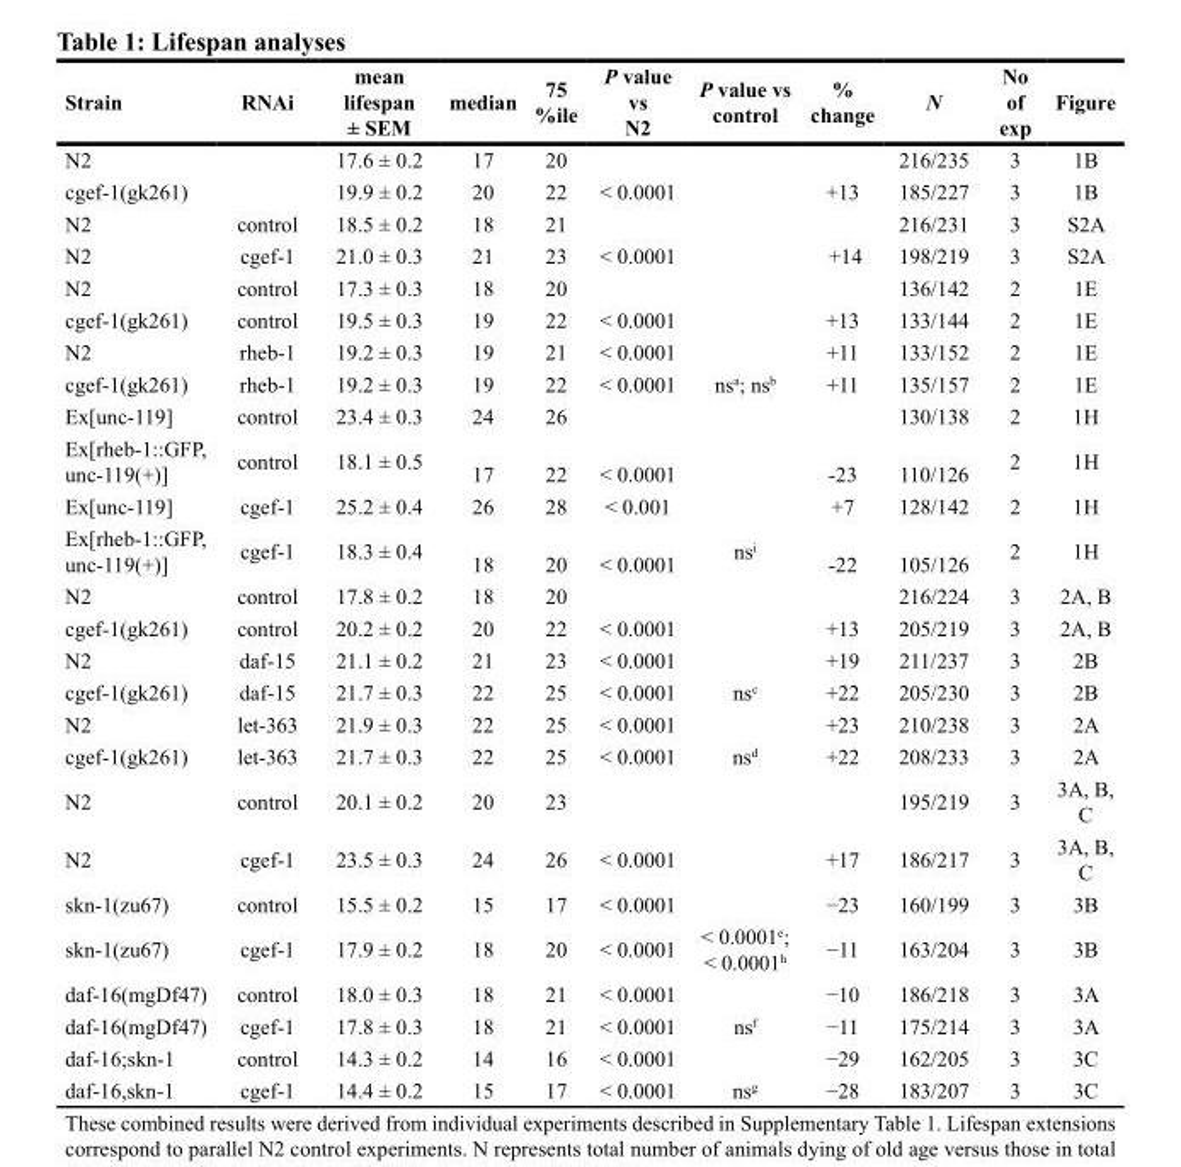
<table><thead><tr><td>Strain</td><td>RNAi</td><td>mean lifespan ± SEM</td><td>median</td><td>75 %ile</td><td>P value vs N2</td><td>P value vs control</td><td>% change</td><td>N</td><td>No of exp</td><td>Figure</td></tr></thead><tbody><tr><td>N2</td><td></td><td>17.6 ± 0.2</td><td>17</td><td>20</td><td></td><td></td><td></td><td>216/235</td><td>3</td><td>1B</td></tr><tr><td>cgef-1(gk261)</td><td></td><td>19.9 ± 0.2</td><td>20</td><td>22</td><td>&lt; 0.0001</td><td></td><td>+13</td><td>185/227</td><td>3</td><td>1B</td></tr><tr><td>N2</td><td>control</td><td>18.5 ± 0.2</td><td>18</td><td>21</td><td></td><td></td><td></td><td>216/231</td><td>3</td><td>S2A</td></tr><tr><td>N2</td><td>cgef-1</td><td>21.0 ± 0.3</td><td>21</td><td>23</td><td>&lt; 0.0001</td><td></td><td>+14</td><td>198/219</td><td>3</td><td>S2A</td></tr><tr><td>N2</td><td>control</td><td>17.3 ± 0.3</td><td>18</td><td>20</td><td></td><td></td><td></td><td>136/142</td><td>2</td><td>1E</td></tr><tr><td>cgef-1(gk261)</td><td>control</td><td>19.5 ± 0.3</td><td>19</td><td>22</td><td>&lt; 0.0001</td><td></td><td>+13</td><td>133/144</td><td>2</td><td>1E</td></tr><tr><td>N2</td><td>rheb-1</td><td>19.2 ± 0.3</td><td>19</td><td>21</td><td>&lt; 0.0001</td><td></td><td>+11</td><td>133/152</td><td>2</td><td>1E</td></tr><tr><td>cgef-1(gk261)</td><td>rheb-1</td><td>19.2 ± 0.3</td><td>19</td><td>22</td><td>&lt; 0.0001</td><td>ns<sup>a</sup>; ns<sup>b</sup></td><td>+11</td><td>135/157</td><td>2</td><td>1E</td></tr><tr><td>Ex[unc-119]</td><td>control</td><td>23.4 ± 0.3</td><td>24</td><td>26</td><td></td><td></td><td></td><td>130/138</td><td>2</td><td>1H</td></tr><tr><td>Ex[rheb-1::GFP, unc-119(+)]</td><td>control</td><td>18.1 ± 0.5</td><td>17</td><td>22</td><td>&lt; 0.0001</td><td></td><td>-23</td><td>110/126</td><td>2</td><td>1H</td></tr><tr><td>Ex[unc-119]</td><td>cgef-1</td><td>25.2 ± 0.4</td><td>26</td><td>28</td><td>&lt; 0.001</td><td></td><td>+7</td><td>128/142</td><td>2</td><td>1H</td></tr><tr><td>Ex[rheb-1::GFP, unc-119(+)]</td><td>cgef-1</td><td>18.3 ± 0.4</td><td>18</td><td>20</td><td>&lt; 0.0001</td><td>ns<sup>i</sup></td><td>-22</td><td>105/126</td><td>2</td><td>1H</td></tr><tr><td>N2</td><td>control</td><td>17.8 ± 0.2</td><td>18</td><td>20</td><td></td><td></td><td></td><td>216/224</td><td>3</td><td>2A, B</td></tr><tr><td>cgef-1(gk261)</td><td>control</td><td>20.2 ± 0.2</td><td>20</td><td>22</td><td>&lt; 0.0001</td><td></td><td>+13</td><td>205/219</td><td>3</td><td>2A, B</td></tr><tr><td>N2</td><td>daf-15</td><td>21.1 ± 0.2</td><td>21</td><td>23</td><td>&lt; 0.0001</td><td></td><td>+19</td><td>211/237</td><td>3</td><td>2B</td></tr><tr><td>cgef-1(gk261)</td><td>daf-15</td><td>21.7 ± 0.3</td><td>22</td><td>25</td><td>&lt; 0.0001</td><td>ns<sup>c</sup></td><td>+22</td><td>205/230</td><td>3</td><td>2B</td></tr><tr><td>N2</td><td>let-363</td><td>21.9 ± 0.3</td><td>22</td><td>25</td><td>&lt; 0.0001</td><td></td><td>+23</td><td>210/238</td><td>3</td><td>2A</td></tr><tr><td>cgef-1(gk261)</td><td>let-363</td><td>21.7 ± 0.3</td><td>22</td><td>25</td><td>&lt; 0.0001</td><td>ns<sup>d</sup></td><td>+22</td><td>208/233</td><td>3</td><td>2A</td></tr><tr><td>N2</td><td>control</td><td>20.1 ± 0.2</td><td>20</td><td>23</td><td></td><td></td><td></td><td>195/219</td><td>3</td><td>3A, B, C</td></tr><tr><td>N2</td><td>cgef-1</td><td>23.5 ± 0.3</td><td>24</td><td>26</td><td>&lt; 0.0001</td><td></td><td>+17</td><td>186/217</td><td>3</td><td>3A, B, C</td></tr><tr><td>skn-1(zu67)</td><td>control</td><td>15.5 ± 0.2</td><td>15</td><td>17</td><td>&lt; 0.0001</td><td></td><td>−23</td><td>160/199</td><td>3</td><td>3B</td></tr><tr><td>skn-1(zu67)</td><td>cgef-1</td><td>17.9 ± 0.2</td><td>18</td><td>20</td><td>&lt; 0.0001</td><td>&lt; 0.0001<sup>e</sup>; &lt; 0.0001<sup>h</sup></td><td>−11</td><td>163/204</td><td>3</td><td>3B</td></tr><tr><td>daf-16(mgDf47)</td><td>control</td><td>18.0 ± 0.3</td><td>18</td><td>21</td><td>&lt; 0.0001</td><td></td><td>−10</td><td>186/218</td><td>3</td><td>3A</td></tr><tr><td>daf-16(mgDf47)</td><td>cgef-1</td><td>17.8 ± 0.3</td><td>18</td><td>21</td><td>&lt; 0.0001</td><td>ns<sup>f</sup></td><td>−11</td><td>175/214</td><td>3</td><td>3A</td></tr><tr><td>daf-16;skn-1</td><td>control</td><td>14.3 ± 0.2</td><td>14</td><td>16</td><td>&lt; 0.0001</td><td></td><td>−29</td><td>162/205</td><td>3</td><td>3C</td></tr><tr><td>daf-16,skn-1</td><td>cgef-1</td><td>14.4 ± 0.2</td><td>15</td><td>17</td><td>&lt; 0.0001</td><td>ns<sup>g</sup></td><td>−28</td><td>183/207</td><td>3</td><td>3C</td></tr></tbody></table>